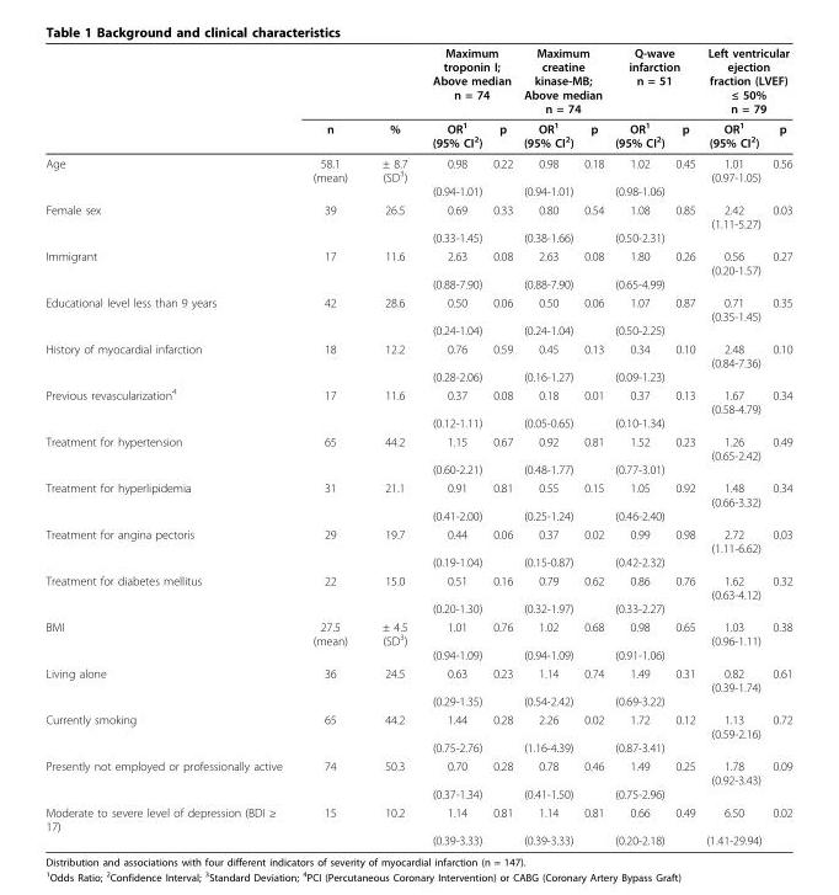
<table><thead><tr><td rowspan="2"></td><td rowspan="2">n</td><td rowspan="2">%</td><td colspan="2">Maximum troponin I; Above median n = 74</td><td colspan="2">Maximum creatine kinase-MB; Above median n = 74</td><td colspan="2">Q-wave infarction n = 51</td><td colspan="2">Left ventricular ejection fraction (LVEF) ≤ 50% n = 79</td></tr><tr><td>OR<sup>1</sup> (95% CI<sup>2</sup>)</td><td>p</td><td>OR<sup>1</sup> (95% CI<sup>2</sup>)</td><td>p</td><td>OR<sup>1</sup> (95% CI<sup>2</sup>)</td><td>p</td><td>OR<sup>1</sup> (95% CI<sup>2</sup>)</td><td>p</td></tr></thead><tbody><tr><td>Age</td><td>58.1 (mean)</td><td>± 8.7 (SD<sup>3</sup>)</td><td>0.98 (0.94-1.01)</td><td>0.22</td><td>0.98 (0.94-1.01)</td><td>0.18</td><td>1.02 (0.98-1.06)</td><td>0.45</td><td>1.01 (0.97-1.05)</td><td>0.56</td></tr><tr><td>Female sex</td><td>39</td><td>26.5</td><td>0.69 (0.33-1.45)</td><td>0.33</td><td>0.80 (0.38-1.66)</td><td>0.54</td><td>1.08 (0.50-2.31)</td><td>0.85</td><td>2.42 (1.11-5.27)</td><td>0.03</td></tr><tr><td>Immigrant</td><td>17</td><td>11.6</td><td>2.63 (0.88-7.90)</td><td>0.08</td><td>2.63 (0.88-7.90)</td><td>0.08</td><td>1.80 (0.65-4.99)</td><td>0.26</td><td>0.56 (0.20-1.57)</td><td>0.27</td></tr><tr><td>Educational level less than 9 years</td><td>42</td><td>28.6</td><td>0.50 (0.24-1.04)</td><td>0.06</td><td>0.50 (0.24-1.04)</td><td>0.06</td><td>1.07 (0.50-2.25)</td><td>0.87</td><td>0.71 (0.35-1.45)</td><td>0.35</td></tr><tr><td>History of myocardial infarction</td><td>18</td><td>12.2</td><td>0.76 (0.28-2.06)</td><td>0.59</td><td>0.45 (0.16-1.27)</td><td>0.13</td><td>0.34 (0.09-1.23)</td><td>0.10</td><td>2.48 (0.84-7.36)</td><td>0.10</td></tr><tr><td>Previous revascularization<sup>4</sup></td><td>17</td><td>11.6</td><td>0.37 (0.12-1.11)</td><td>0.08</td><td>0.18 (0.05-0.65)</td><td>0.01</td><td>0.37 (0.10-1.34)</td><td>0.13</td><td>1.67 (0.58-4.79)</td><td>0.34</td></tr><tr><td>Treatment for hypertension</td><td>65</td><td>44.2</td><td>1.15 (0.60-2.21)</td><td>0.67</td><td>0.92 (0.48-1.77)</td><td>0.81</td><td>1.52 (0.77-3.01)</td><td>0.23</td><td>1.26 (0.65-2.42)</td><td>0.49</td></tr><tr><td>Treatment for hyperlipidemia</td><td>31</td><td>21.1</td><td>0.91 (0.41-2.00)</td><td>0.81</td><td>0.55 (0.25-1.24)</td><td>0.15</td><td>1.05 (0.46-2.40)</td><td>0.92</td><td>1.48 (0.66-3.32)</td><td>0.34</td></tr><tr><td>Treatment for angina pectoris</td><td>29</td><td>19.7</td><td>0.44 (0.19-1.04)</td><td>0.06</td><td>0.37 (0.15-0.87)</td><td>0.02</td><td>0.99 (0.42-2.32)</td><td>0.98</td><td>2.72 (1.11-6.62)</td><td>0.03</td></tr><tr><td>Treatment for diabetes mellitus</td><td>22</td><td>15.0</td><td>0.51 (0.20-1.30)</td><td>0.16</td><td>0.79 (0.32-1.97)</td><td>0.62</td><td>0.86 (0.33-2.27)</td><td>0.76</td><td>1.62 (0.63-4.12)</td><td>0.32</td></tr><tr><td>BMI</td><td>27.5 (mean)</td><td>± 4.5 (SD<sup>3</sup>)</td><td>1.01 (0.94-1.09)</td><td>0.76</td><td>1.02 (0.94-1.09)</td><td>0.68</td><td>0.98 (0.91-1.06)</td><td>0.65</td><td>1.03 (0.96-1.11)</td><td>0.38</td></tr><tr><td>Living alone</td><td>36</td><td>24.5</td><td>0.63 (0.29-1.35)</td><td>0.23</td><td>1.14 (0.54-2.42)</td><td>0.74</td><td>1.49 (0.69-3.22)</td><td>0.31</td><td>0.82 (0.39-1.74)</td><td>0.61</td></tr><tr><td>Currently smoking</td><td>65</td><td>44.2</td><td>1.44 (0.75-2.76)</td><td>0.28</td><td>2.26 (1.16-4.39)</td><td>0.02</td><td>1.72 (0.87-3.41)</td><td>0.12</td><td>1.13 (0.59-2.16)</td><td>0.72</td></tr><tr><td>Presently not employed or professionally active</td><td>74</td><td>50.3</td><td>0.70 (0.37-1.34)</td><td>0.28</td><td>0.78 (0.41-1.50)</td><td>0.46</td><td>1.49 (0.75-2.96)</td><td>0.25</td><td>1.78 (0.92-3.43)</td><td>0.09</td></tr><tr><td>Moderate to severe level of depression (BDI ≥ 17)</td><td>15</td><td>10.2</td><td>1.14 (0.39-3.33)</td><td>0.81</td><td>1.14 (0.39-3.33)</td><td>0.81</td><td>0.66 (0.20-2.18)</td><td>0.49</td><td>6.50 (1.41-29.94)</td><td>0.02</td></tr></tbody></table>